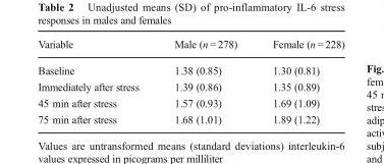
<table><thead><tr><td>Variable</td><td>Male (n = 278)</td><td>Female (n = 228)</td></tr></thead><tbody><tr><td>Baseline</td><td>1.38 (0.85)</td><td>1.30 (0.81)</td></tr><tr><td>Immediately after stress</td><td>1.39 (0.86)</td><td>1.35 (0.89)</td></tr><tr><td>45 min after stress</td><td>1.57 (0.93)</td><td>1.69 (1.09)</td></tr><tr><td>75 min after stress</td><td>1.68 (1.01)</td><td>1.89 (1.22)</td></tr></tbody></table>